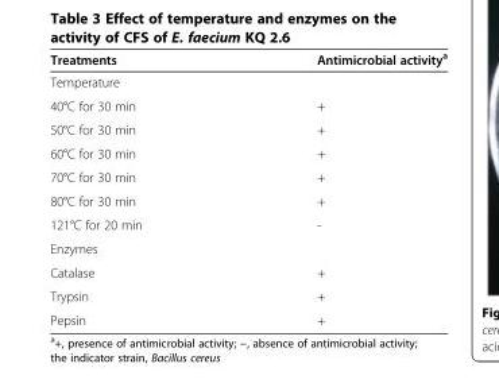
<table><thead><tr><td>Treatments</td><td>Antimicrobial activity<sup>a</sup></td></tr></thead><tbody><tr><td colspan="2">Temperature</td></tr><tr><td>40°C for 30 min</td><td>+</td></tr><tr><td>50°C for 30 min</td><td>+</td></tr><tr><td>60°C for 30 min</td><td>+</td></tr><tr><td>70°C for 30 min</td><td>+</td></tr><tr><td>80°C for 30 min</td><td>+</td></tr><tr><td>121°C for 20 min</td><td>-</td></tr><tr><td colspan="2">Enzymes</td></tr><tr><td>Catalase</td><td>+</td></tr><tr><td>Trypsin</td><td>+</td></tr><tr><td>Pepsin</td><td>+</td></tr></tbody></table>